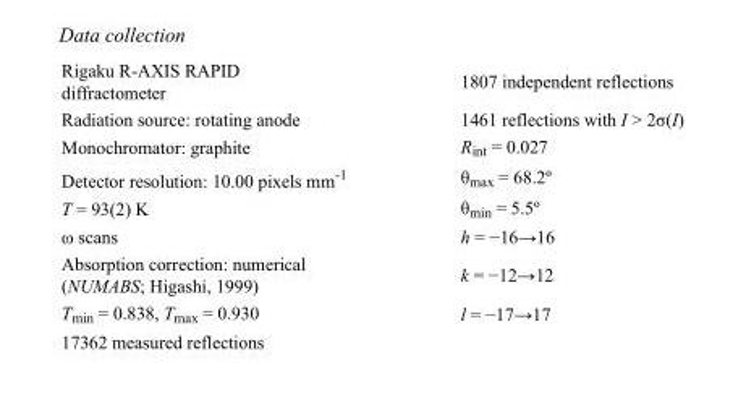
<table><tbody><tr><td>Rigaku R-AXIS RAPID diffractometer</td><td>1807 independent reflections</td></tr><tr><td>Radiation source: rotating anode</td><td>1461 reflections with I &gt; 2σ(I)</td></tr><tr><td>Monochromator: graphite</td><td>R<sub>int</sub> = 0.027</td></tr><tr><td>Detector resolution: 10.00 pixels mm<sup>-1</sup></td><td>θ<sub>max</sub> = 68.2º</td></tr><tr><td>T = 93(2) K</td><td>θ<sub>min</sub> = 5.5º</td></tr><tr><td>ω scans</td><td>h = −16→16</td></tr><tr><td>Absorption correction: numerical (NUMABS; Higashi, 1999)</td><td>k = −12→12</td></tr><tr><td>T<sub>min</sub> = 0.838, T<sub>max</sub> = 0.930</td><td>l = −17→17</td></tr><tr><td>17362 measured reflections</td><td></td></tr></tbody></table>